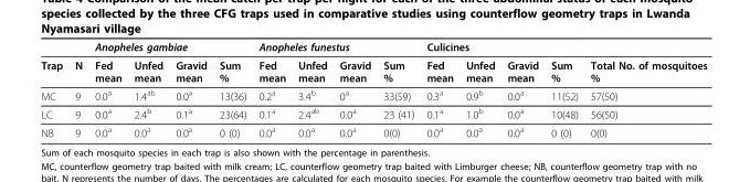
<table><thead><tr><td rowspan="2">Trap</td><td rowspan="2">N</td><td colspan="4">Anopheles gambiae</td><td colspan="4">Anopheles funestus</td><td colspan="4">Culicines</td><td rowspan="2">Total No. of mosquitoes %</td></tr><tr><td>Fed mean</td><td>Unfed mean</td><td>Gravid mean</td><td>Sum %</td><td>Fed mean</td><td>Unfed mean</td><td>Gravid mean</td><td>Sum %</td><td>Fed mean</td><td>Unfed mean</td><td>Gravid mean</td><td>Sum %</td></tr></thead><tbody><tr><td>MC</td><td>9</td><td>0.0a</td><td>1.4ab</td><td>0.0a</td><td>13(36)</td><td>0.2a</td><td>3.4b</td><td>0a</td><td>33(59)</td><td>0.3a</td><td>0.9b</td><td>0.0a</td><td>11(52)</td><td>57(50)</td></tr><tr><td>LC</td><td>9</td><td>0.0a</td><td>2.4b</td><td>0.1a</td><td>23(64)</td><td>0.1a</td><td>2.4ab</td><td>0.0a</td><td>23 (41)</td><td>0.1a</td><td>1.0b</td><td>0.0a</td><td>10(48)</td><td>56(50)</td></tr><tr><td>NB</td><td>9</td><td>0.0a</td><td>0.0a</td><td>0.0a</td><td>0 (0)</td><td>0.0a</td><td>0.0a</td><td>0.0a</td><td>0(0)</td><td>0.0a</td><td>0.0a</td><td>0.0a</td><td>0 (0)</td><td>0(0)</td></tr></tbody></table>